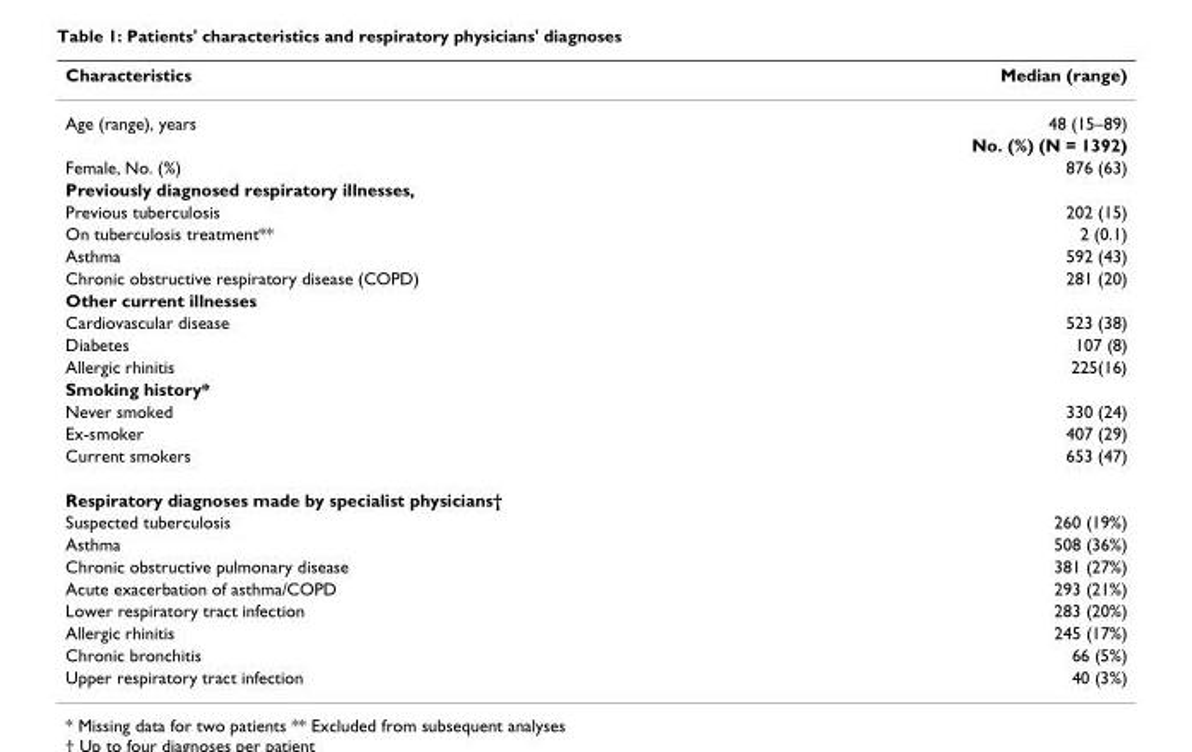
<table><thead><tr><td>Characteristics</td><td>Median (range)</td></tr></thead><tbody><tr><td rowspan="2">Age (range), years</td><td>48 (15–89)</td></tr><tr><td>No. (%) (N = 1392)</td></tr><tr><td>Female, No. (%)</td><td>876 (63)</td></tr><tr><td colspan="2">Previously diagnosed respiratory illnesses,</td></tr><tr><td>Previous tuberculosis</td><td>202 (15)</td></tr><tr><td>On tuberculosis treatment**</td><td>2 (0.1)</td></tr><tr><td>Asthma</td><td>592 (43)</td></tr><tr><td>Chronic obstructive respiratory disease (COPD)</td><td>281 (20)</td></tr><tr><td colspan="2">Other current illnesses</td></tr><tr><td>Cardiovascular disease</td><td>523 (38)</td></tr><tr><td>Diabetes</td><td>107 (8)</td></tr><tr><td>Allergic rhinitis</td><td>225(16)</td></tr><tr><td colspan="2">Smoking history*</td></tr><tr><td>Never smoked</td><td>330 (24)</td></tr><tr><td>Ex-smoker</td><td>407 (29)</td></tr><tr><td>Current smokers</td><td>653 (47)</td></tr><tr><td colspan="2">Respiratory diagnoses made by specialist physicians†</td></tr><tr><td>Suspected tuberculosis</td><td>260 (19%)</td></tr><tr><td>Asthma</td><td>508 (36%)</td></tr><tr><td>Chronic obstructive pulmonary disease</td><td>381 (27%)</td></tr><tr><td>Acute exacerbation of asthma/COPD</td><td>293 (21%)</td></tr><tr><td>Lower respiratory tract infection</td><td>283 (20%)</td></tr><tr><td>Allergic rhinitis</td><td>245 (17%)</td></tr><tr><td>Chronic bronchitis</td><td>66 (5%)</td></tr><tr><td>Upper respiratory tract infection</td><td>40 (3%)</td></tr></tbody></table>